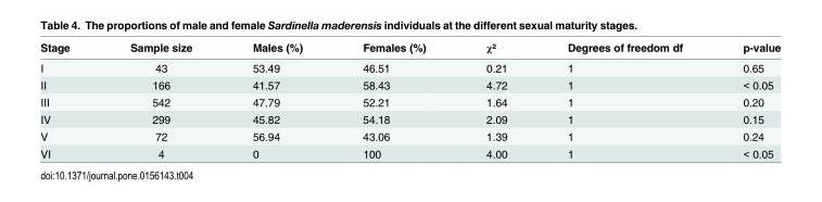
<table><thead><tr><td>Stage</td><td>Sample size</td><td>Males (%)</td><td>Females (%)</td><td>χ²</td><td>Degrees of freedom df</td><td>p-value</td></tr></thead><tbody><tr><td>I</td><td>43</td><td>53.49</td><td>46.51</td><td>0.21</td><td>1</td><td>0.65</td></tr><tr><td>II</td><td>166</td><td>41.57</td><td>58.43</td><td>4.72</td><td>1</td><td>&lt; 0.05</td></tr><tr><td>III</td><td>542</td><td>47.79</td><td>52.21</td><td>1.64</td><td>1</td><td>0.20</td></tr><tr><td>IV</td><td>299</td><td>45.82</td><td>54.18</td><td>2.09</td><td>1</td><td>0.15</td></tr><tr><td>V</td><td>72</td><td>56.94</td><td>43.06</td><td>1.39</td><td>1</td><td>0.24</td></tr><tr><td>VI</td><td>4</td><td>0</td><td>100</td><td>4.00</td><td>1</td><td>&lt; 0.05</td></tr></tbody></table>